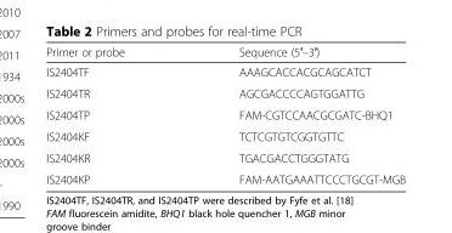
<table><thead><tr><td>Primer or probe</td><td>Sequence (5′–3′)</td></tr></thead><tbody><tr><td>IS2404TF</td><td>AAAGCACCACGCAGCATCT</td></tr><tr><td>IS2404TR</td><td>AGCGACCCCAGTGGATTG</td></tr><tr><td>IS2404TP</td><td>FAM-CGTCCAACGCGATC-BHQ1</td></tr><tr><td>IS2404KF</td><td>TCTCGTGTCGGTGTTC</td></tr><tr><td>IS2404KR</td><td>TGACGACCTGGGTATG</td></tr><tr><td>IS2404KP</td><td>FAM-AATGAAATTCCCTGCGT-MGB</td></tr></tbody></table>